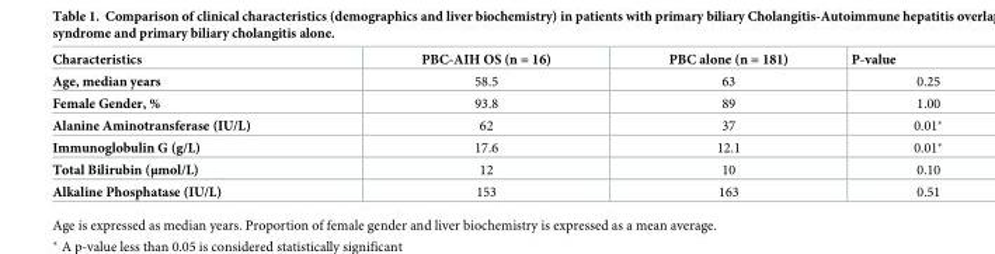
<table><thead><tr><td>Characteristics</td><td>PBC-AIH OS (n = 16)</td><td>PBC alone (n = 181)</td><td>P-value</td></tr></thead><tbody><tr><td>Age, median years</td><td>58.5</td><td>63</td><td>0.25</td></tr><tr><td>Female Gender, %</td><td>93.8</td><td>89</td><td>1.00</td></tr><tr><td>Alanine Aminotransferase (IU/L)</td><td>62</td><td>37</td><td>0.01*</td></tr><tr><td>Immunoglobulin G (g/L)</td><td>17.6</td><td>12.1</td><td>0.01*</td></tr><tr><td>Total Bilirubin (μmol/L)</td><td>12</td><td>10</td><td>0.10</td></tr><tr><td>Alkaline Phosphatase (IU/L)</td><td>153</td><td>163</td><td>0.51</td></tr></tbody></table>